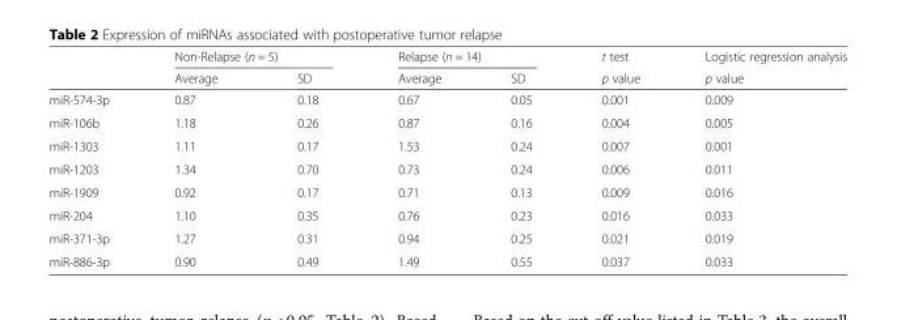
<table><thead><tr><td rowspan="2"></td><td colspan="2">Non-Relapse (n = 5)</td><td colspan="2">Relapse (n = 14)</td><td rowspan="2">t test p value</td><td rowspan="2">Logistic regression analysis p value</td></tr><tr><td>Average</td><td>SD</td><td>Average</td><td>SD</td></tr></thead><tbody><tr><td>miR-574-3p</td><td>0.87</td><td>0.18</td><td>0.67</td><td>0.05</td><td>0.001</td><td>0.009</td></tr><tr><td>miR-106b</td><td>1.18</td><td>0.26</td><td>0.87</td><td>0.16</td><td>0.004</td><td>0.005</td></tr><tr><td>miR-1303</td><td>1.11</td><td>0.17</td><td>1.53</td><td>0.24</td><td>0.007</td><td>0.001</td></tr><tr><td>miR-1203</td><td>1.34</td><td>0.70</td><td>0.73</td><td>0.24</td><td>0.006</td><td>0.011</td></tr><tr><td>miR-1909</td><td>0.92</td><td>0.17</td><td>0.71</td><td>0.13</td><td>0.009</td><td>0.016</td></tr><tr><td>miR-204</td><td>1.10</td><td>0.35</td><td>0.76</td><td>0.23</td><td>0.016</td><td>0.033</td></tr><tr><td>miR-371-3p</td><td>1.27</td><td>0.31</td><td>0.94</td><td>0.25</td><td>0.021</td><td>0.019</td></tr><tr><td>miR-886-3p</td><td>0.90</td><td>0.49</td><td>1.49</td><td>0.55</td><td>0.037</td><td>0.033</td></tr></tbody></table>